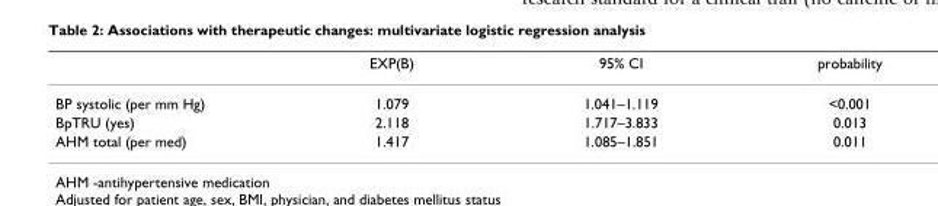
<table><thead><tr><td></td><td>EXP(B)</td><td>95% CI</td><td>probability</td></tr></thead><tbody><tr><td>BP systolic (per mm Hg)</td><td>1.079</td><td>1.041–1.119</td><td>&lt;0.001</td></tr><tr><td>BpTRU (yes)</td><td>2.118</td><td>1.717–3.833</td><td>0.013</td></tr><tr><td>AHM total (per med)</td><td>1.417</td><td>1.085–1.851</td><td>0.011</td></tr></tbody></table>